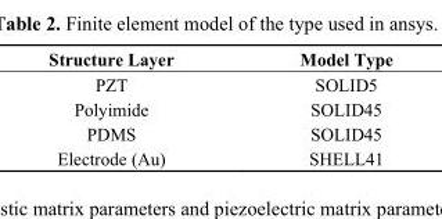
<table><thead><tr><td>Structure Layer</td><td>Model Type</td></tr></thead><tbody><tr><td>PZT</td><td>SOLID5</td></tr><tr><td>Polyimide</td><td>SOLID45</td></tr><tr><td>PDMS</td><td>SOLID45</td></tr><tr><td>Electrode (Au)</td><td>SHELL41</td></tr></tbody></table>